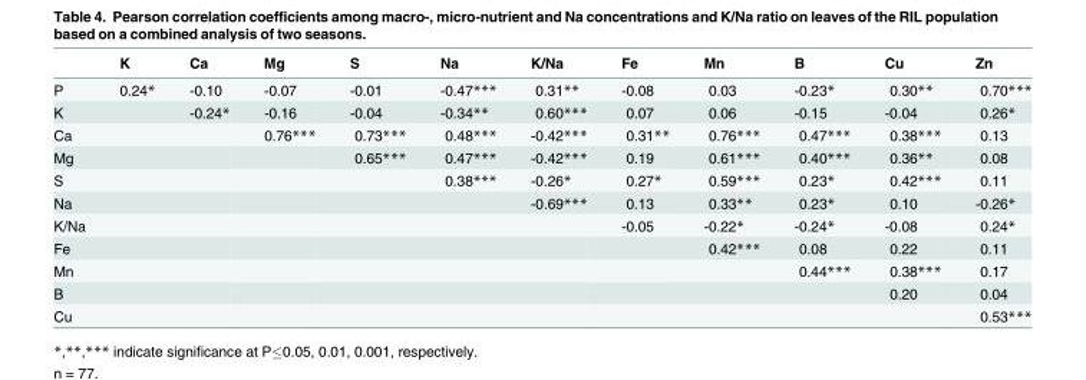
<table><thead><tr><td></td><td>K</td><td>Ca</td><td>Mg</td><td>S</td><td>Na</td><td>K/Na</td><td>Fe</td><td>Mn</td><td>B</td><td>Cu</td><td>Zn</td></tr></thead><tbody><tr><td>P</td><td>0.24*</td><td>-0.10</td><td>-0.07</td><td>-0.01</td><td>-0.47***</td><td>0.31**</td><td>-0.08</td><td>0.03</td><td>-0.23*</td><td>0.30**</td><td>0.70***</td></tr><tr><td>K</td><td></td><td>-0.24*</td><td>-0.16</td><td>-0.04</td><td>-0.34**</td><td>0.60***</td><td>0.07</td><td>0.06</td><td>-0.15</td><td>-0.04</td><td>0.26*</td></tr><tr><td>Ca</td><td></td><td></td><td>0.76***</td><td>0.73***</td><td>0.48***</td><td>-0.42***</td><td>0.31**</td><td>0.76***</td><td>0.47***</td><td>0.38***</td><td>0.13</td></tr><tr><td>Mg</td><td></td><td></td><td></td><td>0.65***</td><td>0.47***</td><td>-0.42***</td><td>0.19</td><td>0.61***</td><td>0.40***</td><td>0.36**</td><td>0.08</td></tr><tr><td>S</td><td></td><td></td><td></td><td></td><td>0.38***</td><td>-0.26*</td><td>0.27*</td><td>0.59***</td><td>0.23*</td><td>0.42***</td><td>0.11</td></tr><tr><td>Na</td><td></td><td></td><td></td><td></td><td></td><td>-0.69***</td><td>0.13</td><td>0.33**</td><td>0.23*</td><td>0.10</td><td>-0.26*</td></tr><tr><td>K/Na</td><td></td><td></td><td></td><td></td><td></td><td></td><td>-0.05</td><td>-0.22*</td><td>-0.24*</td><td>-0.08</td><td>0.24*</td></tr><tr><td>Fe</td><td></td><td></td><td></td><td></td><td></td><td></td><td></td><td>0.42***</td><td>0.08</td><td>0.22</td><td>0.11</td></tr><tr><td>Mn</td><td></td><td></td><td></td><td></td><td></td><td></td><td></td><td></td><td>0.44***</td><td>0.38***</td><td>0.17</td></tr><tr><td>B</td><td></td><td></td><td></td><td></td><td></td><td></td><td></td><td></td><td></td><td>0.20</td><td>0.04</td></tr><tr><td>Cu</td><td></td><td></td><td></td><td></td><td></td><td></td><td></td><td></td><td></td><td></td><td>0.53***</td></tr></tbody></table>